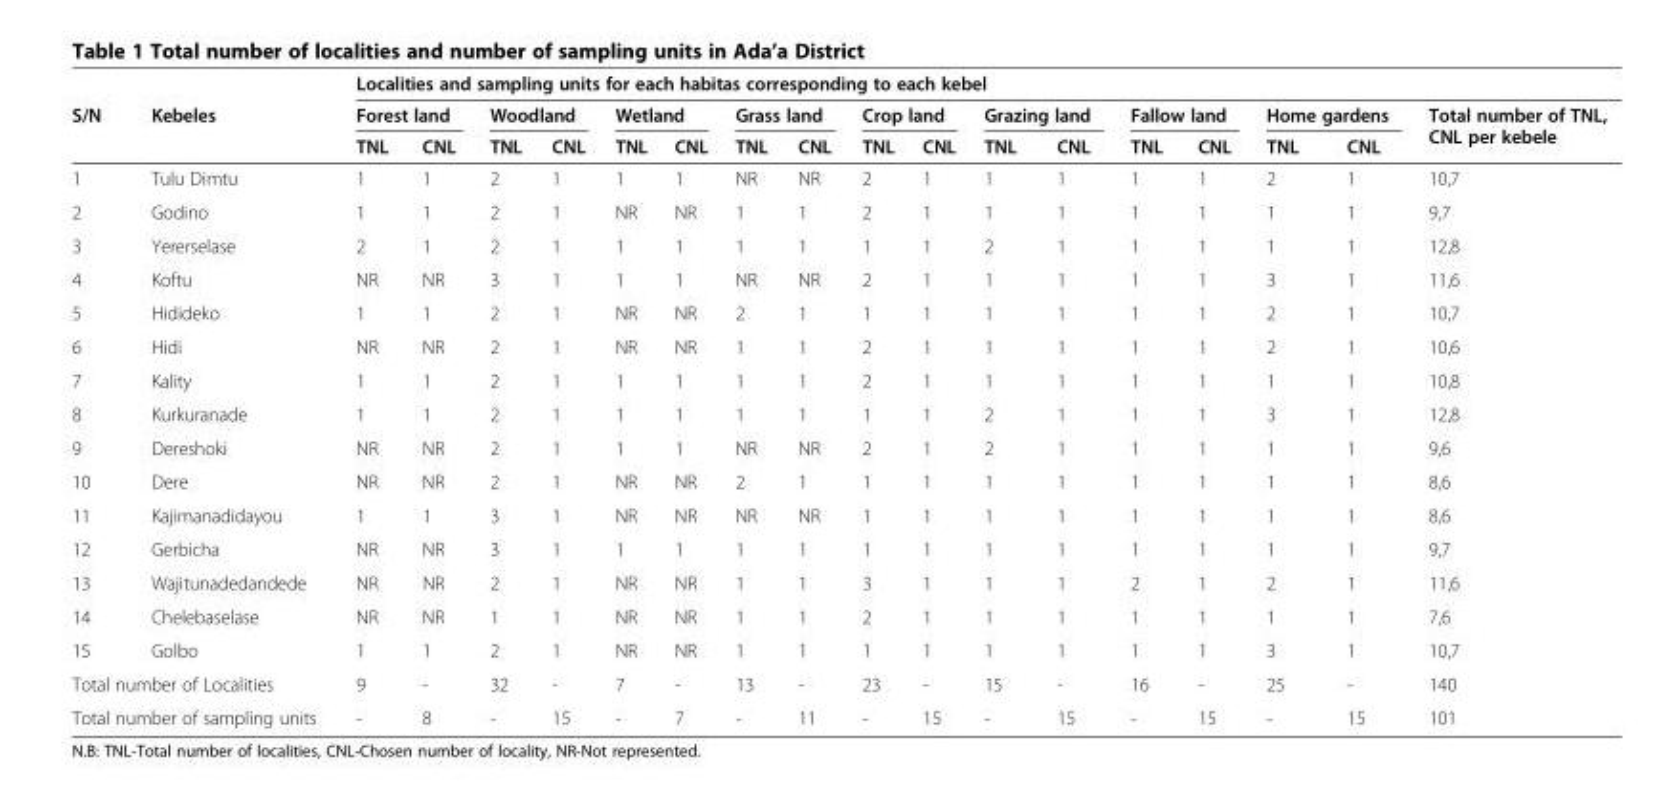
<table><thead><tr><td rowspan="3">S/N</td><td rowspan="3">Kebeles</td><td colspan="17">Localities and sampling units for each habitas corresponding to each kebel</td></tr><tr><td colspan="2">Forest land</td><td colspan="2">Woodland</td><td colspan="2">Wetland</td><td colspan="2">Grass land</td><td colspan="2">Crop land</td><td colspan="2">Grazing land</td><td colspan="2">Fallow land</td><td colspan="2">Home gardens</td><td rowspan="2">Total number of TNL, CNL per kebele</td></tr><tr><td>TNL</td><td>CNL</td><td>TNL</td><td>CNL</td><td>TNL</td><td>CNL</td><td>TNL</td><td>CNL</td><td>TNL</td><td>CNL</td><td>TNL</td><td>CNL</td><td>TNL</td><td>CNL</td><td>TNL</td><td>CNL</td></tr></thead><tbody><tr><td>1</td><td>Tulu Dimtu</td><td>1</td><td>1</td><td>2</td><td>1</td><td>1</td><td>1</td><td>NR</td><td>NR</td><td>2</td><td>1</td><td>1</td><td>1</td><td>1</td><td>1</td><td>2</td><td>1</td><td>10,7</td></tr><tr><td>2</td><td>Godino</td><td>1</td><td>1</td><td>2</td><td>1</td><td>NR</td><td>NR</td><td>1</td><td>1</td><td>2</td><td>1</td><td>1</td><td>1</td><td>1</td><td>1</td><td>1</td><td>1</td><td>9,7</td></tr><tr><td>3</td><td>Yererselase</td><td>2</td><td>1</td><td>2</td><td>1</td><td>1</td><td>1</td><td>1</td><td>1</td><td>1</td><td>1</td><td>2</td><td>1</td><td>1</td><td>1</td><td>1</td><td>1</td><td>12,8</td></tr><tr><td>4</td><td>Koftu</td><td>NR</td><td>NR</td><td>3</td><td>1</td><td>1</td><td>1</td><td>NR</td><td>NR</td><td>2</td><td>1</td><td>1</td><td>1</td><td>1</td><td>1</td><td>3</td><td>1</td><td>11,6</td></tr><tr><td>5</td><td>Hidideko</td><td>1</td><td>1</td><td>2</td><td>1</td><td>NR</td><td>NR</td><td>2</td><td>1</td><td>1</td><td>1</td><td>1</td><td>1</td><td>1</td><td>1</td><td>2</td><td>1</td><td>10,7</td></tr><tr><td>6</td><td>Hidi</td><td>NR</td><td>NR</td><td>2</td><td>1</td><td>NR</td><td>NR</td><td>1</td><td>1</td><td>2</td><td>1</td><td>1</td><td>1</td><td>1</td><td>1</td><td>2</td><td>1</td><td>10,6</td></tr><tr><td>7</td><td>Kality</td><td>1</td><td>1</td><td>2</td><td>1</td><td>1</td><td>1</td><td>1</td><td>1</td><td>2</td><td>1</td><td>1</td><td>1</td><td>1</td><td>1</td><td>1</td><td>1</td><td>10,8</td></tr><tr><td>8</td><td>Kurkuranade</td><td>1</td><td>1</td><td>2</td><td>1</td><td>1</td><td>1</td><td>1</td><td>1</td><td>1</td><td>1</td><td>2</td><td>1</td><td>1</td><td>1</td><td>3</td><td>1</td><td>12,8</td></tr><tr><td>9</td><td>Dereshoki</td><td>NR</td><td>NR</td><td>2</td><td>1</td><td>1</td><td>1</td><td>NR</td><td>NR</td><td>2</td><td>1</td><td>2</td><td>1</td><td>1</td><td>1</td><td>1</td><td>1</td><td>9,6</td></tr><tr><td>10</td><td>Dere</td><td>NR</td><td>NR</td><td>2</td><td>1</td><td>NR</td><td>NR</td><td>2</td><td>1</td><td>1</td><td>1</td><td>1</td><td>1</td><td>1</td><td>1</td><td>1</td><td>1</td><td>8,6</td></tr><tr><td>11</td><td>Kajimanadidayou</td><td>1</td><td>1</td><td>3</td><td>1</td><td>NR</td><td>NR</td><td>NR</td><td>NR</td><td>1</td><td>1</td><td>1</td><td>1</td><td>1</td><td>1</td><td>1</td><td>1</td><td>8,6</td></tr><tr><td>12</td><td>Gerbicha</td><td>NR</td><td>NR</td><td>3</td><td>1</td><td>1</td><td>1</td><td>1</td><td>1</td><td>1</td><td>1</td><td>1</td><td>1</td><td>1</td><td>1</td><td>1</td><td>1</td><td>9,7</td></tr><tr><td>13</td><td>Wajitunadedandede</td><td>NR</td><td>NR</td><td>2</td><td>1</td><td>NR</td><td>NR</td><td>1</td><td>1</td><td>3</td><td>1</td><td>1</td><td>1</td><td>2</td><td>1</td><td>2</td><td>1</td><td>11,6</td></tr><tr><td>14</td><td>Chelebaselase</td><td>NR</td><td>NR</td><td>1</td><td>1</td><td>NR</td><td>NR</td><td>1</td><td>1</td><td>2</td><td>1</td><td>1</td><td>1</td><td>1</td><td>1</td><td>1</td><td>1</td><td>7,6</td></tr><tr><td>15</td><td>Golbo</td><td>1</td><td>1</td><td>2</td><td>1</td><td>NR</td><td>NR</td><td>1</td><td>1</td><td>1</td><td>1</td><td>1</td><td>1</td><td>1</td><td>1</td><td>3</td><td>1</td><td>10,7</td></tr><tr><td colspan="2">Total number of Localities</td><td>9</td><td>-</td><td>32</td><td>-</td><td>7</td><td>-</td><td>13</td><td>-</td><td>23</td><td>-</td><td>15</td><td>-</td><td>16</td><td>-</td><td>25</td><td>-</td><td>140</td></tr><tr><td colspan="2">Total number of sampling units</td><td>-</td><td>8</td><td>-</td><td>15</td><td>-</td><td>7</td><td>-</td><td>11</td><td>-</td><td>15</td><td>-</td><td>15</td><td>-</td><td>15</td><td>-</td><td>15</td><td>101</td></tr></tbody></table>